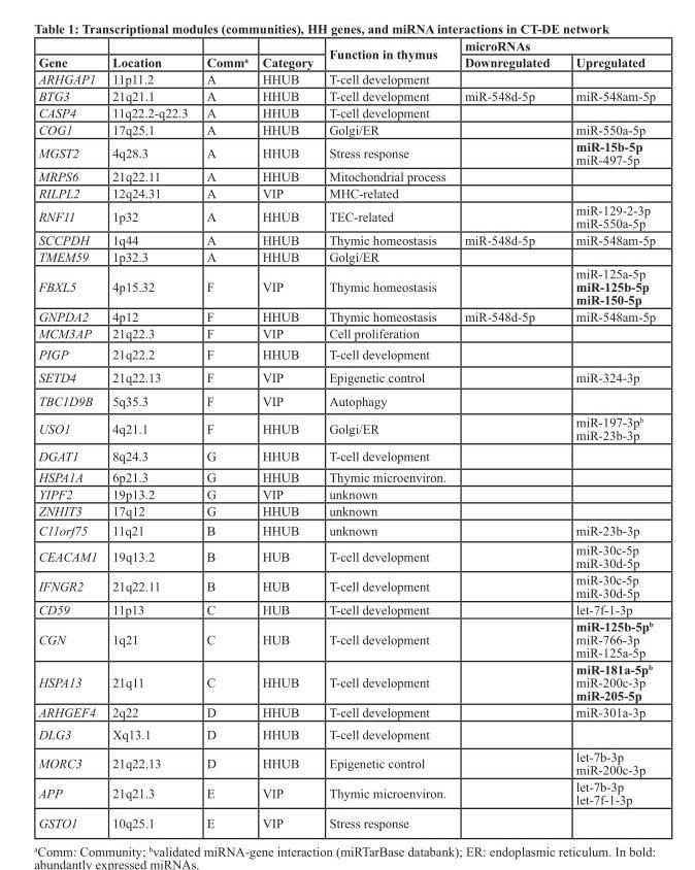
<table><thead><tr><td rowspan="2">Gene</td><td rowspan="2">Location</td><td rowspan="2">Comm<sup>a</sup></td><td rowspan="2">Category</td><td rowspan="2">Function in thymus</td><td colspan="2">microRNAs</td></tr><tr><td>Downregulated</td><td>Upregulated</td></tr></thead><tbody><tr><td>ARHGAP1</td><td>11p11.2</td><td>A</td><td>HHUB</td><td>T-cell development</td><td></td><td></td></tr><tr><td>BTG3</td><td>21q21.1</td><td>A</td><td>HHUB</td><td>T-cell development</td><td>miR-548d-5p</td><td>miR-548am-5p</td></tr><tr><td>CASP4</td><td>11q22.2-q22.3</td><td>A</td><td>HHUB</td><td>T-cell development</td><td></td><td></td></tr><tr><td>COG1</td><td>17q25.1</td><td>A</td><td>HHUB</td><td>Golgi/ER</td><td></td><td>miR-550a-5p</td></tr><tr><td>MGST2</td><td>4q28.3</td><td>A</td><td>HHUB</td><td>Stress response</td><td></td><td>miR-15b-5p miR-497-5p</td></tr><tr><td>MRPS6</td><td>21q22.11</td><td>A</td><td>HHUB</td><td>Mitochondrial process</td><td></td><td></td></tr><tr><td>RILPL2</td><td>12q24.31</td><td>A</td><td>VIP</td><td>MHC-related</td><td></td><td></td></tr><tr><td>RNF11</td><td>1p32</td><td>A</td><td>HHUB</td><td>TEC-related</td><td></td><td>miR-129-2-3p miR-550a-5p</td></tr><tr><td>SCCPDH</td><td>1q44</td><td>A</td><td>HHUB</td><td>Thymic homeostasis</td><td>miR-548d-5p</td><td>miR-548am-5p</td></tr><tr><td>TMEM59</td><td>1p32.3</td><td>A</td><td>HHUB</td><td>Golgi/ER</td><td></td><td></td></tr><tr><td>FBXL5</td><td>4p15.32</td><td>F</td><td>VIP</td><td>Thymic homeostasis</td><td></td><td>miR-125a-5p miR-125b-5p miR-150-5p</td></tr><tr><td>GNPDA2</td><td>4p12</td><td>F</td><td>HHUB</td><td>Thymic homeostasis</td><td>miR-548d-5p</td><td>miR-548am-5p</td></tr><tr><td>MCM3AP</td><td>21q22.3</td><td>F</td><td>VIP</td><td>Cell proliferation</td><td></td><td></td></tr><tr><td>PIGP</td><td>21q22.2</td><td>F</td><td>HHUB</td><td>T-cell development</td><td></td><td></td></tr><tr><td>SETD4</td><td>21q22.13</td><td>F</td><td>VIP</td><td>Epigenetic control</td><td></td><td>miR-324-3p</td></tr><tr><td>TBC1D9B</td><td>5q35.3</td><td>F</td><td>VIP</td><td>Autophagy</td><td></td><td></td></tr><tr><td>USO1</td><td>4q21.1</td><td>F</td><td>HHUB</td><td>Golgi/ER</td><td></td><td>miR-197-3p<sup>b</sup> miR-23b-3p</td></tr><tr><td>DGAT1</td><td>8q24.3</td><td>G</td><td>HHUB</td><td>T-cell development</td><td></td><td></td></tr><tr><td>HSPA1A</td><td>6p21.3</td><td>G</td><td>HHUB</td><td>Thymic microenviron.</td><td></td><td></td></tr><tr><td>YIPF2</td><td>19p13.2</td><td>G</td><td>VIP</td><td>unknown</td><td></td><td></td></tr><tr><td>ZNHIT3</td><td>17q12</td><td>G</td><td>HHUB</td><td>unknown</td><td></td><td></td></tr><tr><td>C11orf75</td><td>11q21</td><td>B</td><td>HHUB</td><td>unknown</td><td></td><td>miR-23b-3p</td></tr><tr><td>CEACAM1</td><td>19q13.2</td><td>B</td><td>HUB</td><td>T-cell development</td><td></td><td>miR-30c-5p miR-30d-5p</td></tr><tr><td>IFNGR2</td><td>21q22.11</td><td>B</td><td>HUB</td><td>T-cell development</td><td></td><td>miR-30c-5p miR-30d-5p</td></tr><tr><td>CD59</td><td>11p13</td><td>C</td><td>HUB</td><td>T-cell development</td><td></td><td>let-7f-1-3p</td></tr><tr><td>CGN</td><td>1q21</td><td>C</td><td>HUB</td><td>T-cell development</td><td></td><td>miR-125b-5p<sup>b</sup> miR-766-3p miR-125a-5p</td></tr><tr><td>HSPA13</td><td>21q11</td><td>C</td><td>HHUB</td><td>T-cell development</td><td></td><td>miR-181a-5p<sup>b</sup> miR-200c-3p miR-205-5p</td></tr><tr><td>ARHGEF4</td><td>2q22</td><td>D</td><td>HHUB</td><td>T-cell development</td><td></td><td>miR-301a-3p</td></tr><tr><td>DLG3</td><td>Xq13.1</td><td>D</td><td>HHUB</td><td>T-cell development</td><td></td><td></td></tr><tr><td>MORC3</td><td>21q22.13</td><td>D</td><td>HHUB</td><td>Epigenetic control</td><td></td><td>let-7b-3p miR-200c-3p</td></tr><tr><td>APP</td><td>21q21.3</td><td>E</td><td>VIP</td><td>Thymic microenviron.</td><td></td><td>let-7b-3p let-7f-1-3p</td></tr><tr><td>GSTO1</td><td>10q25.1</td><td>E</td><td>VIP</td><td>Stress response</td><td></td><td></td></tr></tbody></table>